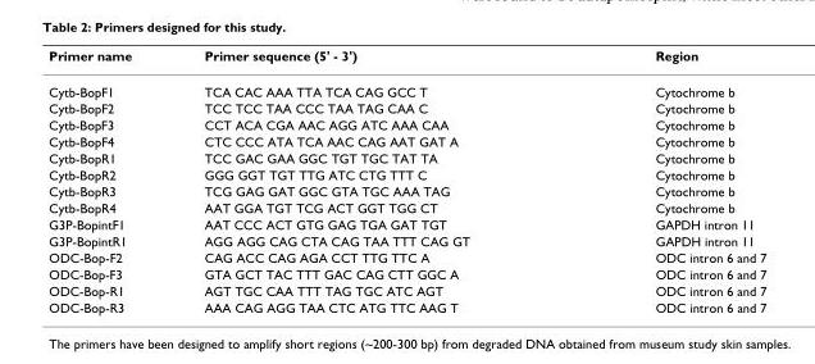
<table><thead><tr><td>Primer name</td><td>Primer sequence (5&#x27; - 3&#x27;)</td><td>Region</td></tr></thead><tbody><tr><td>Cytb-BopF1</td><td>TCA CAC AAA TTA TCA CAG GCC T</td><td>Cytochrome b</td></tr><tr><td>Cytb-BopF2</td><td>TCC TCC TAA CCC TAA TAG CAA C</td><td>Cytochrome b</td></tr><tr><td>Cytb-BopF3</td><td>CCT ACA CGA AAC AGG ATC AAA CAA</td><td>Cytochrome b</td></tr><tr><td>Cytb-BopF4</td><td>CTC CCC ATA TCA AAC CAG AAT GAT A</td><td>Cytochrome b</td></tr><tr><td>Cytb-BopR1</td><td>TCC GAC GAA GGC TGT TGC TAT TA</td><td>Cytochrome b</td></tr><tr><td>Cytb-BopR2</td><td>GGG GGT TGT TTG ATC CTG TTT C</td><td>Cytochrome b</td></tr><tr><td>Cytb-BopR3</td><td>TCG GAG GAT GGC GTA TGC AAA TAG</td><td>Cytochrome b</td></tr><tr><td>Cytb-BopR4</td><td>AAT GGA TGT TCG ACT GGT TGG CT</td><td>Cytochrome b</td></tr><tr><td>G3P-BopintF1</td><td>AAT CCC ACT GTG GAG TGA GAT TGT</td><td>GAPDH intron 11</td></tr><tr><td>G3P-BopintR1</td><td>AGG AGG CAG CTA CAG TAA TTT CAG GT</td><td>GAPDH intron 11</td></tr><tr><td>ODC-Bop-F2</td><td>CAG ACC CAG AGA CCT TTG TTC A</td><td>ODC intron 6 and 7</td></tr><tr><td>ODC-Bop-F3</td><td>GTA GCT TAC TTT GAC CAG CTT GGC A</td><td>ODC intron 6 and 7</td></tr><tr><td>ODC-Bop-R1</td><td>AGT TGC CAA TTT TAG TGC ATC AGT</td><td>ODC intron 6 and 7</td></tr><tr><td>ODC-Bop-R3</td><td>AAA CAG AGG TAA CTC ATG TTC AAG T</td><td>ODC intron 6 and 7</td></tr></tbody></table>